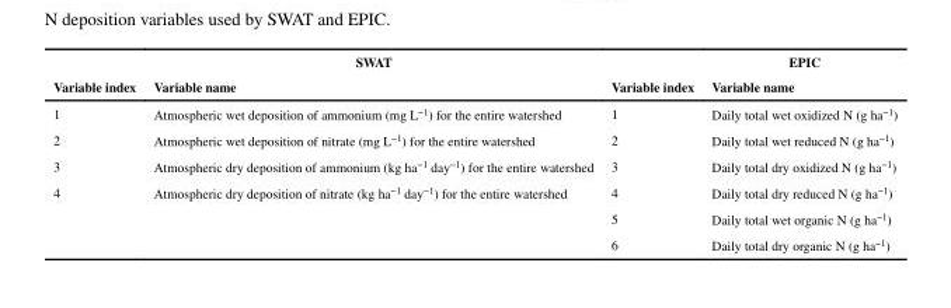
<table><thead><tr><td rowspan="2">Variable index</td><td rowspan="2">SWAT Variable name</td><td rowspan="2">Variable index</td><td rowspan="2">EPIC Variable name</td></tr><tr></tr></thead><tbody><tr><td>1</td><td>Atmospheric wet deposition of ammonium (mg L<sup>−1</sup>) for the entire watershed</td><td>1</td><td>Daily total wet oxidized N (g ha<sup>−1</sup>)</td></tr><tr><td>2</td><td>Atmospheric wet deposition of nitrate (mg L<sup>−1</sup>) for the entire watershed</td><td>2</td><td>Daily total wet reduced N (g ha<sup>−1</sup>)</td></tr><tr><td>3</td><td>Atmospheric dry deposition of ammonium (kg ha<sup>−1</sup> day<sup>−1</sup>) for the entire watershed</td><td>3</td><td>Daily total dry oxidized N (g ha<sup>−1</sup>)</td></tr><tr><td rowspan="3">4</td><td>Atmospheric dry deposition of nitrate (kg ha<sup>−1</sup> day<sup>−1</sup>) for the entire watershed</td><td>4</td><td>Daily total dry reduced N (g ha<sup>−1</sup>)</td></tr><tr><td></td><td>5</td><td>Daily total wet organic N (g ha<sup>−1</sup>)</td></tr><tr><td></td><td>6</td><td>Daily total dry organic N (g ha<sup>−1</sup>)</td></tr></tbody></table>